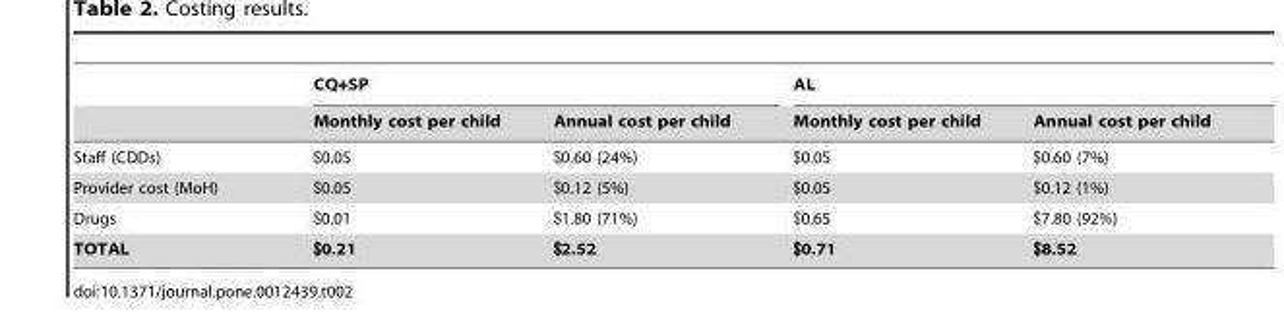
<table><thead><tr><td rowspan="2"></td><td colspan="2">CQ+SP</td><td colspan="2">AL</td></tr><tr><td>Monthly cost per child</td><td>Annual cost per child</td><td>Monthly cost per child</td><td>Annual cost per child</td></tr></thead><tbody><tr><td>Staff (CDDs)</td><td>$0.05</td><td>$0.60 (24%)</td><td>$0.05</td><td>$0.60 (7%)</td></tr><tr><td>Provider cost (MoH)</td><td>$0.05</td><td>$0.12 (5%)</td><td>$0.05</td><td>$0.12 (1%)</td></tr><tr><td>Drugs</td><td>$0.01</td><td>$1.80 (71%)</td><td>$0.65</td><td>$7.80 (92%)</td></tr><tr><td>TOTAL</td><td>$0.21</td><td>$2.52</td><td>$0.71</td><td>$8.52</td></tr></tbody></table>